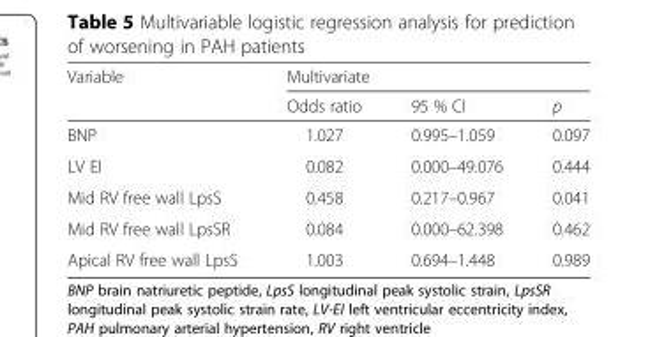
<table><thead><tr><td rowspan="2">Variable</td><td colspan="3">Multivariate</td></tr><tr><td>Odds ratio</td><td>95 % CI</td><td>p</td></tr></thead><tbody><tr><td>BNP</td><td>1.027</td><td>0.995–1.059</td><td>0.097</td></tr><tr><td>LV EI</td><td>0.082</td><td>0.000–49.076</td><td>0.444</td></tr><tr><td>Mid RV free wall LpsS</td><td>0.458</td><td>0.217–0.967</td><td>0.041</td></tr><tr><td>Mid RV free wall LpsSR</td><td>0.084</td><td>0.000–62.398</td><td>0.462</td></tr><tr><td>Apical RV free wall LpsS</td><td>1.003</td><td>0.694–1.448</td><td>0.989</td></tr></tbody></table>